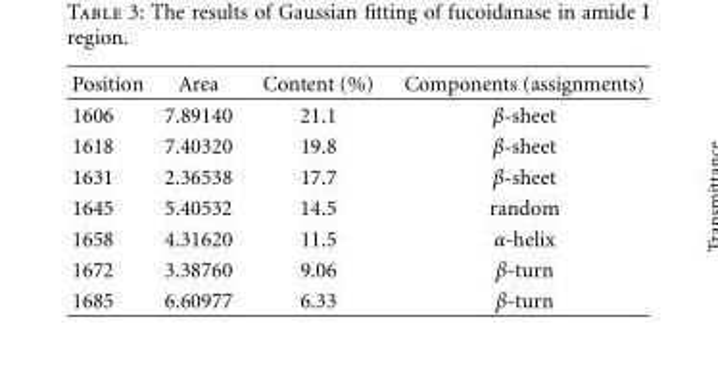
<table><thead><tr><td>Position</td><td>Area</td><td>Content (%)</td><td>Components (assignments)</td></tr></thead><tbody><tr><td>1606</td><td>7.89140</td><td>21.1</td><td>β-sheet</td></tr><tr><td>1618</td><td>7.40320</td><td>19.8</td><td>β-sheet</td></tr><tr><td>1631</td><td>2.36538</td><td>17.7</td><td>β-sheet</td></tr><tr><td>1645</td><td>5.40532</td><td>14.5</td><td>random</td></tr><tr><td>1658</td><td>4.31620</td><td>11.5</td><td>α-helix</td></tr><tr><td>1672</td><td>3.38760</td><td>9.06</td><td>β-turn</td></tr><tr><td>1685</td><td>6.60977</td><td>6.33</td><td>β-turn</td></tr></tbody></table>